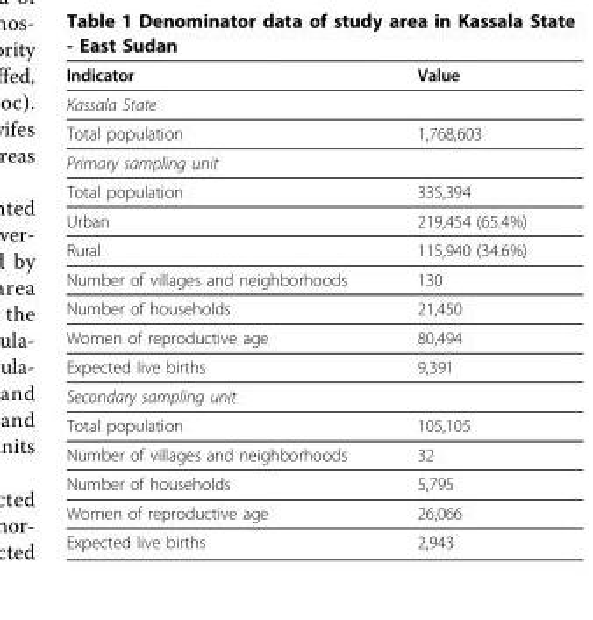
<table><thead><tr><td>Indicator</td><td>Value</td></tr></thead><tbody><tr><td colspan="2">Kassala State</td></tr><tr><td>Total population</td><td>1,768,603</td></tr><tr><td colspan="2">Primary sampling unit</td></tr><tr><td>Total population</td><td>335,394</td></tr><tr><td>Urban</td><td>219,454 (65.4%)</td></tr><tr><td>Rural</td><td>115,940 (34.6%)</td></tr><tr><td>Number of villages and neighborhoods</td><td>130</td></tr><tr><td>Number of households</td><td>21,450</td></tr><tr><td>Women of reproductive age</td><td>80,494</td></tr><tr><td>Expected live births</td><td>9,391</td></tr><tr><td colspan="2">Secondary sampling unit</td></tr><tr><td>Total population</td><td>105,105</td></tr><tr><td>Number of villages and neighborhoods</td><td>32</td></tr><tr><td>Number of households</td><td>5,795</td></tr><tr><td>Women of reproductive age</td><td>26,066</td></tr><tr><td>Expected live births</td><td>2,943</td></tr></tbody></table>